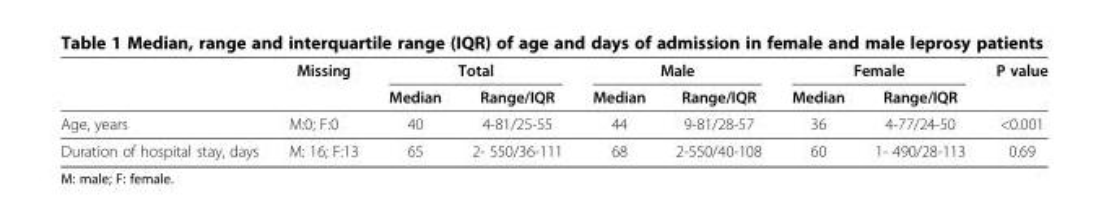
<table><thead><tr><td rowspan="2"></td><td rowspan="2">Missing</td><td colspan="2">Total</td><td colspan="2">Male</td><td colspan="2">Female</td><td rowspan="2">P value</td></tr><tr><td>Median</td><td>Range/IQR</td><td>Median</td><td>Range/IQR</td><td>Median</td><td>Range/IQR</td></tr></thead><tbody><tr><td>Age, years</td><td>M:0; F:0</td><td>40</td><td>4-81/25-55</td><td>44</td><td>9-81/28-57</td><td>36</td><td>4-77/24-50</td><td>&lt;0.001</td></tr><tr><td>Duration of hospital stay, days</td><td>M: 16; F:13</td><td>65</td><td>2- 550/36-111</td><td>68</td><td>2-550/40-108</td><td>60</td><td>1- 490/28-113</td><td>0.69</td></tr></tbody></table>